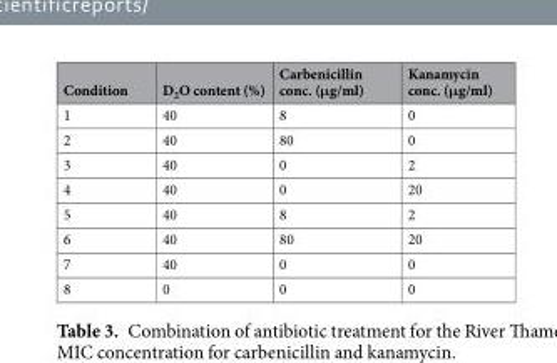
<table><thead><tr><td>Condition</td><td>D<sub>2</sub>O content (%)</td><td>Carbenicillin conc. (μg/ml)</td><td>Kanamycin conc. (μg/ml)</td></tr></thead><tbody><tr><td>1</td><td>40</td><td>8</td><td>0</td></tr><tr><td>2</td><td>40</td><td>80</td><td>0</td></tr><tr><td>3</td><td>40</td><td>0</td><td>2</td></tr><tr><td>4</td><td>40</td><td>0</td><td>20</td></tr><tr><td>5</td><td>40</td><td>8</td><td>2</td></tr><tr><td>6</td><td>40</td><td>80</td><td>20</td></tr><tr><td>7</td><td>40</td><td>0</td><td>0</td></tr><tr><td>8</td><td>0</td><td>0</td><td>0</td></tr></tbody></table>